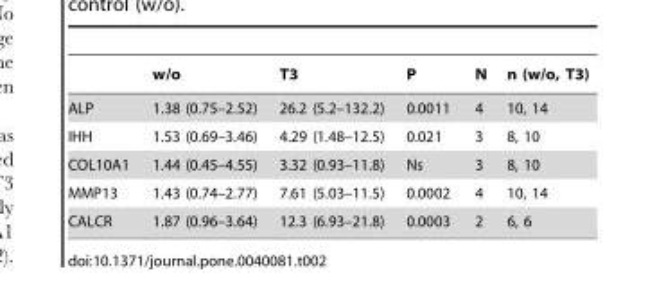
<table><thead><tr><td></td><td>w/o</td><td>T3</td><td>P</td><td>N</td><td>n (w/o, T3)</td></tr></thead><tbody><tr><td>ALP</td><td>1.38 (0.75–2.52)</td><td>26.2 (5.2–132.2)</td><td>0.0011</td><td>4</td><td>10, 14</td></tr><tr><td>IHH</td><td>1.53 (0.69–3.46)</td><td>4.29 (1.48–12.5)</td><td>0.021</td><td>3</td><td>8, 10</td></tr><tr><td>COL10A1</td><td>1.44 (0.45–4.55)</td><td>3.32 (0.93–11.8)</td><td>Ns</td><td>3</td><td>8, 10</td></tr><tr><td>MMP13</td><td>1.43 (0.74–2.77)</td><td>7.61 (5.03–11.5)</td><td>0.0002</td><td>4</td><td>10, 14</td></tr><tr><td>CALCR</td><td>1.87 (0.96–3.64)</td><td>12.3 (6.93–21.8)</td><td>0.0003</td><td>2</td><td>6, 6</td></tr></tbody></table>